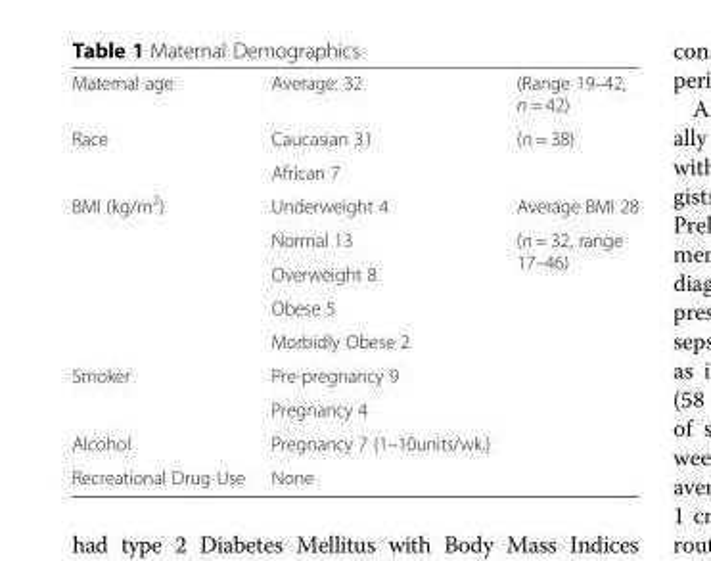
<table><tbody><tr><td>Maternal age</td><td>Average: 32</td><td>(Range 19–42, n = 42)</td></tr><tr><td rowspan="2">Race</td><td>Caucasian 31</td><td rowspan="2">(n = 38)</td></tr><tr><td>African 7</td></tr><tr><td rowspan="5">BMI (kg/m<sup>2</sup>)</td><td>Underweight 4</td><td>Average BMI 28</td></tr><tr><td>Normal 13</td><td rowspan="4">(n = 32, range 17–46)</td></tr><tr><td>Overweight 8</td></tr><tr><td>Obese 5</td></tr><tr><td>Morbidly Obese 2</td></tr><tr><td rowspan="2">Smoker</td><td>Pre-pregnancy 9</td><td rowspan="2"></td></tr><tr><td>Pregnancy 4</td></tr><tr><td>Alcohol</td><td>Pregnancy 7 (1–10units/wk.)</td><td></td></tr><tr><td>Recreational Drug Use</td><td>None</td><td></td></tr></tbody></table>